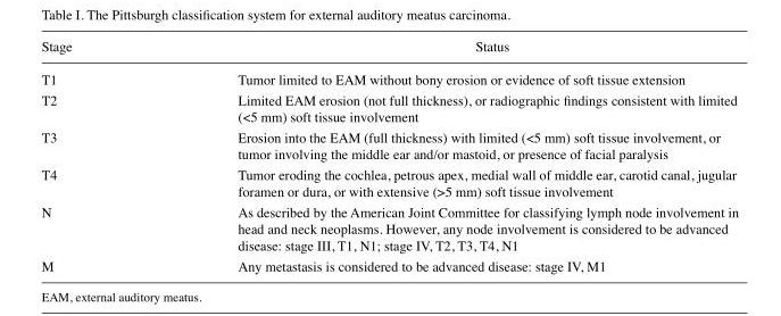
<table><thead><tr><td>Stage</td><td>Status</td></tr></thead><tbody><tr><td>T1</td><td>Tumor limited to EAM without bony erosion or evidence of soft tissue extension</td></tr><tr><td>T2</td><td>Limited EAM erosion (not full thickness), or radiographic findings consistent with limited (&lt;5 mm) soft tissue involvement</td></tr><tr><td>T3</td><td>Erosion into the EAM (full thickness) with limited (&lt;5 mm) soft tissue involvement, or tumor involving the middle ear and/or mastoid, or presence of facial paralysis</td></tr><tr><td>T4</td><td>Tumor eroding the cochlea, petrous apex, medial wall of middle ear, carotid canal, jugular foramen or dura, or with extensive (&gt;5 mm) soft tissue involvement</td></tr><tr><td>N</td><td>As described by the American Joint Committee for classifying lymph node involvement in head and neck neoplasms. However, any node involvement is considered to be advanced disease: stage III, T1, N1; stage IV, T2, T3, T4, N1</td></tr><tr><td>M</td><td>Any metastasis is considered to be advanced disease: stage IV, M1</td></tr></tbody></table>